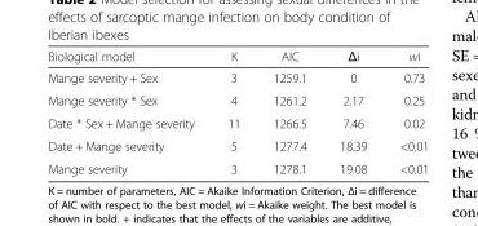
<table><thead><tr><td>Biological model</td><td>K</td><td>AIC</td><td>Δi</td><td>wi</td></tr></thead><tbody><tr><td>Mange severity + Sex</td><td>3</td><td>1259.1</td><td>0</td><td>0.73</td></tr><tr><td>Mange severity * Sex</td><td>4</td><td>1261.2</td><td>2.17</td><td>0.25</td></tr><tr><td>Date * Sex + Mange severity</td><td>11</td><td>1266.5</td><td>7.46</td><td>0.02</td></tr><tr><td>Date + Mange severity</td><td>5</td><td>1277.4</td><td>18.39</td><td>&lt;0.01</td></tr><tr><td>Mange severity</td><td>3</td><td>1278.1</td><td>19.08</td><td>&lt;0.01</td></tr></tbody></table>